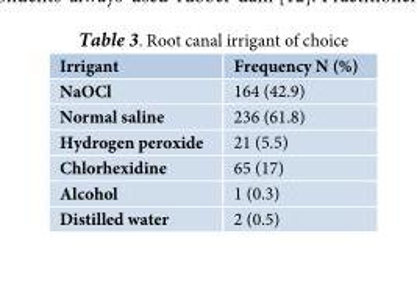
<table><thead><tr><td>Irrigant</td><td>Frequency N (%)</td></tr></thead><tbody><tr><td>NaOCl</td><td>164 (42.9)</td></tr><tr><td>Normal saline</td><td>236 (61.8)</td></tr><tr><td>Hydrogen peroxide</td><td>21 (5.5)</td></tr><tr><td>Chlorhexidine</td><td>65 (17)</td></tr><tr><td>Alcohol</td><td>1 (0.3)</td></tr><tr><td>Distilled water</td><td>2 (0.5)</td></tr></tbody></table>